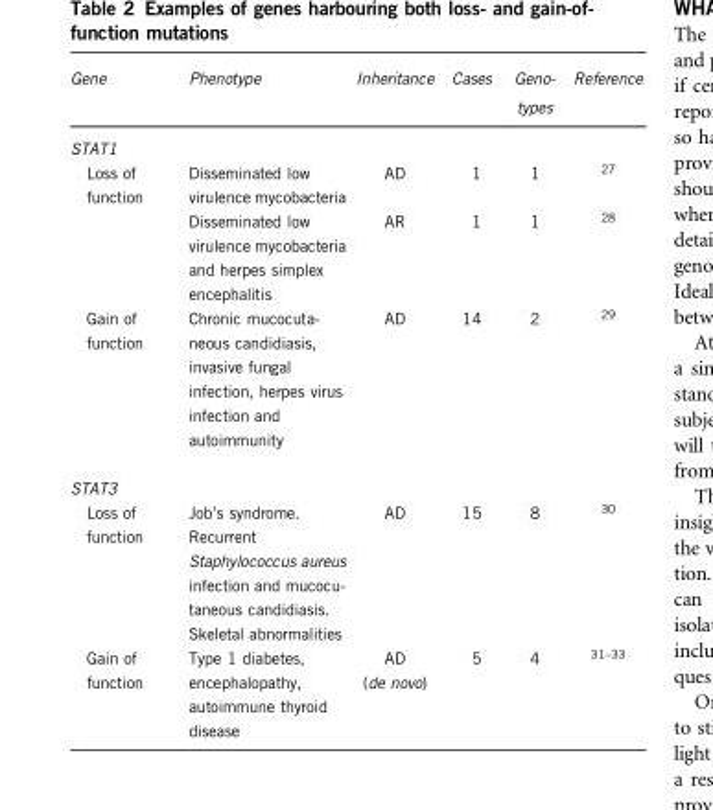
<table><thead><tr><td>Gene</td><td>Phenotype</td><td>Inheritance</td><td>Cases</td><td>Geno- types</td><td>Reference</td></tr></thead><tbody><tr><td colspan="6">STAT1</td></tr><tr><td rowspan="2">Loss of function</td><td>Disseminated low virulence mycobacteria</td><td>AD</td><td>1</td><td>1</td><td><sup>27</sup></td></tr><tr><td>Disseminated low virulence mycobacteria and herpes simplex encephalitis</td><td>AR</td><td>1</td><td>1</td><td><sup>28</sup></td></tr><tr><td>Gain of function</td><td>Chronic mucocuta- neous candidiasis, invasive fungal infection, herpes virus infection and autoimmunity</td><td>AD</td><td>14</td><td>2</td><td><sup>29</sup></td></tr><tr><td colspan="6">STAT3</td></tr><tr><td>Loss of function</td><td>Job’s syndrome. Recurrent Staphylococcus aureus infection and mucocu- taneous candidiasis. Skeletal abnormalities</td><td>AD</td><td>15</td><td>8</td><td><sup>30</sup></td></tr><tr><td>Gain of function</td><td>Type 1 diabetes, encephalopathy, autoimmune thyroid disease</td><td>AD (de novo)</td><td>5</td><td>4</td><td>31–33</td></tr></tbody></table>